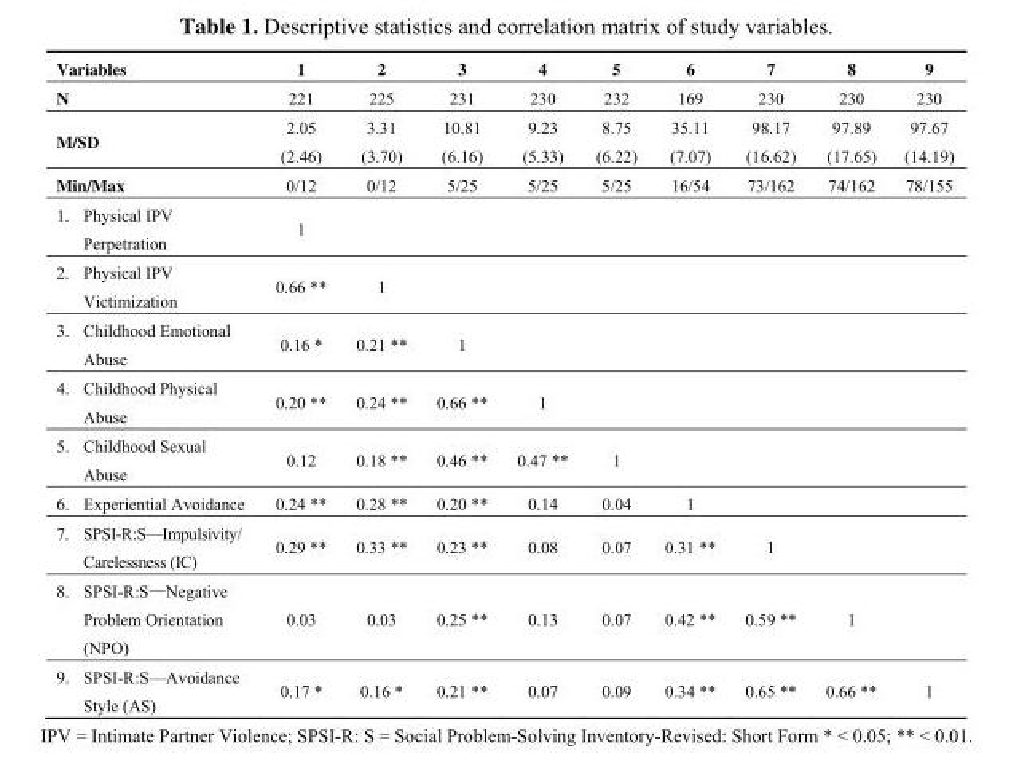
<table><thead><tr><td>Variables</td><td>1</td><td>2</td><td>3</td><td>4</td><td>5</td><td>6</td><td>7</td><td>8</td><td>9</td></tr></thead><tbody><tr><td>N</td><td>221</td><td>225</td><td>231</td><td>230</td><td>232</td><td>169</td><td>230</td><td>230</td><td>230</td></tr><tr><td>M/SD</td><td>2.05 (2.46)</td><td>3.31 (3.70)</td><td>10.81 (6.16)</td><td>9.23 (5.33)</td><td>8.75 (6.22)</td><td>35.11 (7.07)</td><td>98.17 (16.62)</td><td>97.89 (17.65)</td><td>97.67 (14.19)</td></tr><tr><td>Min/Max</td><td>0/12</td><td>0/12</td><td>5/25</td><td>5/25</td><td>5/25</td><td>16/54</td><td>73/162</td><td>74/162</td><td>78/155</td></tr><tr><td>1. Physical IPV Perpetration</td><td>1</td><td></td><td></td><td></td><td></td><td></td><td></td><td></td><td></td></tr><tr><td>2. Physical IPV Victimization</td><td>0.66 **</td><td>1</td><td></td><td></td><td></td><td></td><td></td><td></td><td></td></tr><tr><td>3. Childhood Emotional Abuse</td><td>0.16 *</td><td>0.21 **</td><td>1</td><td></td><td></td><td></td><td></td><td></td><td></td></tr><tr><td>4. Childhood Physical Abuse</td><td>0.20 **</td><td>0.24 **</td><td>0.66 **</td><td>1</td><td></td><td></td><td></td><td></td><td></td></tr><tr><td>5. Childhood Sexual Abuse</td><td>0.12</td><td>0.18 **</td><td>0.46 **</td><td>0.47 **</td><td>1</td><td></td><td></td><td></td><td></td></tr><tr><td>6. Experiential Avoidance</td><td>0.24 **</td><td>0.28 **</td><td>0.20 **</td><td>0.14</td><td>0.04</td><td>1</td><td></td><td></td><td></td></tr><tr><td>7. SPSI-R:S—Impulsivity/ Carelessness (IC)</td><td>0.29 **</td><td>0.33 **</td><td>0.23 **</td><td>0.08</td><td>0.07</td><td>0.31 **</td><td>1</td><td></td><td></td></tr><tr><td>8. SPSI-R:S—Negative Problem Orientation (NPO)</td><td>0.03</td><td>0.03</td><td>0.25 **</td><td>0.13</td><td>0.07</td><td>0.42 **</td><td>0.59 **</td><td>1</td><td></td></tr><tr><td>9. SPSI-R:S—Avoidance Style (AS)</td><td>0.17 *</td><td>0.16 *</td><td>0.21 **</td><td>0.07</td><td>0.09</td><td>0.34 **</td><td>0.65 **</td><td>0.66 **</td><td>1</td></tr></tbody></table>